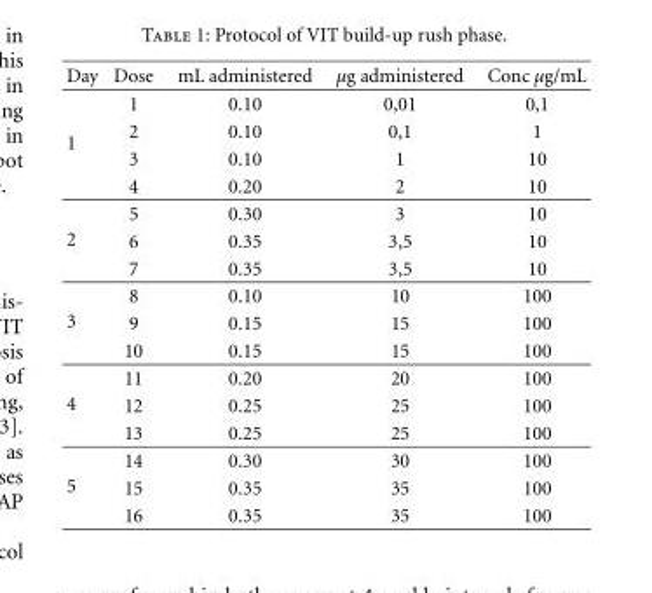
<table><thead><tr><td>Day</td><td>Dose</td><td>mL administered</td><td>μg administered</td><td>Conc μg/mL</td></tr></thead><tbody><tr><td rowspan="4">1</td><td>1</td><td>0.10</td><td>0,01</td><td>0,1</td></tr><tr><td>2</td><td>0.10</td><td>0,1</td><td>1</td></tr><tr><td>3</td><td>0.10</td><td>1</td><td>10</td></tr><tr><td>4</td><td>0.20</td><td>2</td><td>10</td></tr><tr><td rowspan="3">2</td><td>5</td><td>0.30</td><td>3</td><td>10</td></tr><tr><td>6</td><td>0.35</td><td>3,5</td><td>10</td></tr><tr><td>7</td><td>0.35</td><td>3,5</td><td>10</td></tr><tr><td rowspan="3">3</td><td>8</td><td>0.10</td><td>10</td><td>100</td></tr><tr><td>9</td><td>0.15</td><td>15</td><td>100</td></tr><tr><td>10</td><td>0.15</td><td>15</td><td>100</td></tr><tr><td rowspan="3">4</td><td>11</td><td>0.20</td><td>20</td><td>100</td></tr><tr><td>12</td><td>0.25</td><td>25</td><td>100</td></tr><tr><td>13</td><td>0.25</td><td>25</td><td>100</td></tr><tr><td rowspan="3">5</td><td>14</td><td>0.30</td><td>30</td><td>100</td></tr><tr><td>15</td><td>0.35</td><td>35</td><td>100</td></tr><tr><td>16</td><td>0.35</td><td>35</td><td>100</td></tr></tbody></table>